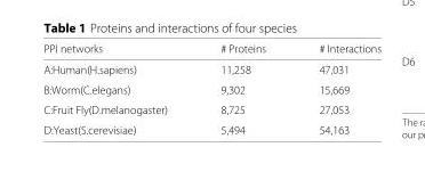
<table><thead><tr><td>PPI networks</td><td># Proteins</td><td># Interactions</td></tr></thead><tbody><tr><td>A:Human(H.sapiens)</td><td>11,258</td><td>47,031</td></tr><tr><td>B:Worm(C.elegans)</td><td>9,302</td><td>15,669</td></tr><tr><td>C:Fruit Fly(D.melanogaster)</td><td>8,725</td><td>27,053</td></tr><tr><td>D:Yeast(S.cerevisiae)</td><td>5,494</td><td>54,163</td></tr></tbody></table>